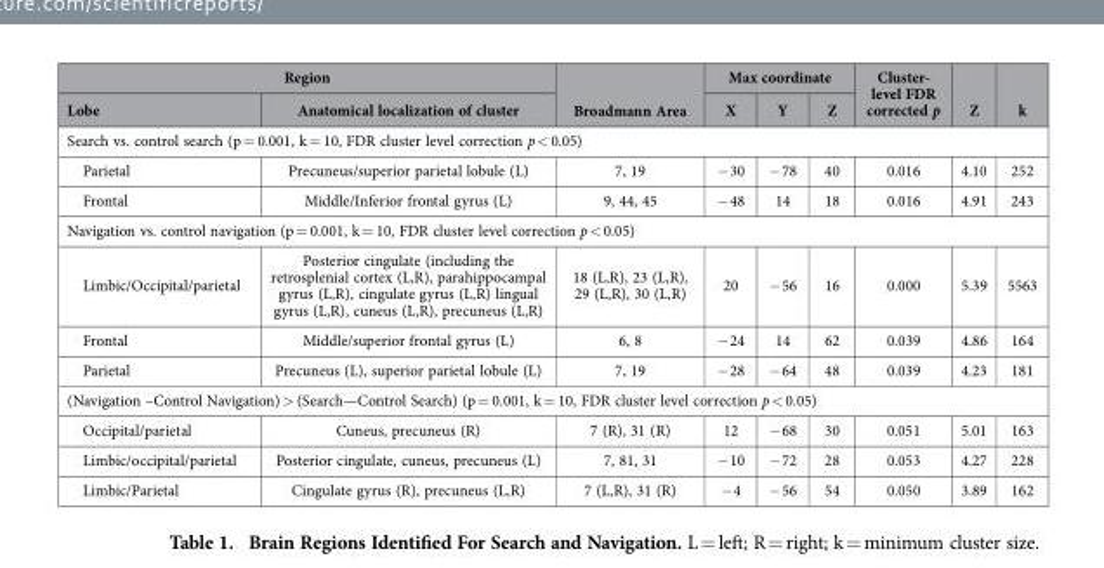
<table><thead><tr><td colspan="2">Region</td><td rowspan="2">Broadmann Area</td><td colspan="3">Max coordinate</td><td rowspan="2">Cluster- level FDR corrected p</td><td rowspan="2">Z</td><td rowspan="2">k</td></tr><tr><td>Lobe</td><td>Anatomical localization of cluster</td><td>X</td><td>Y</td><td>Z</td></tr></thead><tbody><tr><td colspan="9">Search vs. control search (p = 0.001, k = 10, FDR cluster level correction p &lt; 0.05)</td></tr><tr><td>Parietal</td><td>Precuneus/superior parietal lobule (L)</td><td>7, 19</td><td>− 30</td><td>− 78</td><td>40</td><td>0.016</td><td>4.10</td><td>252</td></tr><tr><td>Frontal</td><td>Middle/Inferior frontal gyrus (L)</td><td>9, 44, 45</td><td>− 48</td><td>14</td><td>18</td><td>0.016</td><td>4.91</td><td>243</td></tr><tr><td colspan="9">Navigation vs. control navigation (p = 0.001, k = 10, FDR cluster level correction p &lt; 0.05)</td></tr><tr><td>Limbic/Occipital/parietal</td><td>Posterior cingulate (including the retrosplenial cortex (L,R), parahippocampal gyrus (L,R), cingulate gyrus (L,R) lingual gyrus (L,R), cuneus (L,R), precuneus (L,R)</td><td>18 (L,R), 23 (L,R), 29 (L,R), 30 (L,R)</td><td>20</td><td>− 56</td><td>16</td><td>0.000</td><td>5.39</td><td>5563</td></tr><tr><td>Frontal</td><td>Middle/superior frontal gyrus (L)</td><td>6, 8</td><td>− 24</td><td>14</td><td>62</td><td>0.039</td><td>4.86</td><td>164</td></tr><tr><td>Parietal</td><td>Precuneus (L), superior parietal lobule (L)</td><td>7, 19</td><td>− 28</td><td>− 64</td><td>48</td><td>0.039</td><td>4.23</td><td>181</td></tr><tr><td colspan="9">(Navigation –Control Navigation) &gt; (Search—Control Search) (p = 0.001, k = 10, FDR cluster level correction p &lt; 0.05)</td></tr><tr><td>Occipital/parietal</td><td>Cuneus, precuneus (R)</td><td>7 (R), 31 (R)</td><td>12</td><td>− 68</td><td>30</td><td>0.051</td><td>5.01</td><td>163</td></tr><tr><td>Limbic/occipital/parietal</td><td>Posterior cingulate, cuneus, precuneus (L)</td><td>7, 81, 31</td><td>− 10</td><td>− 72</td><td>28</td><td>0.053</td><td>4.27</td><td>228</td></tr><tr><td>Limbic/Parietal</td><td>Cingulate gyrus (R), precuneus (L,R)</td><td>7 (L,R), 31 (R)</td><td>− 4</td><td>− 56</td><td>54</td><td>0.050</td><td>3.89</td><td>162</td></tr></tbody></table>